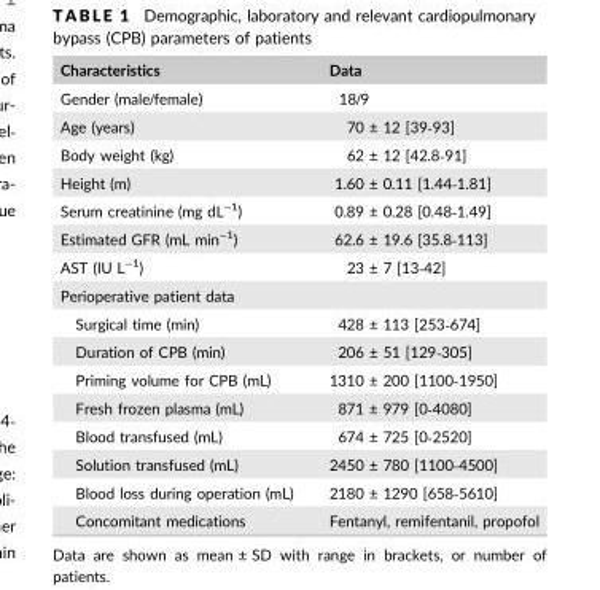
<table><thead><tr><td>Characteristics</td><td>Data</td></tr></thead><tbody><tr><td>Gender (male/female)</td><td>18/9</td></tr><tr><td>Age (years)</td><td>70 ± 12 [39‐93]</td></tr><tr><td>Body weight (kg)</td><td>62 ± 12 [42.8‐91]</td></tr><tr><td>Height (m)</td><td>1.60 ± 0.11 [1.44‐1.81]</td></tr><tr><td>Serum creatinine (mg dL<sup>−1</sup>)</td><td>0.89 ± 0.28 [0.48‐1.49]</td></tr><tr><td>Estimated GFR (mL min<sup>−1</sup>)</td><td>62.6 ± 19.6 [35.8‐113]</td></tr><tr><td>AST (IU L<sup>−1</sup>)</td><td>23 ± 7 [13‐42]</td></tr><tr><td colspan="2">Perioperative patient data</td></tr><tr><td>Surgical time (min)</td><td>428 ± 113 [253‐674]</td></tr><tr><td>Duration of CPB (min)</td><td>206 ± 51 [129‐305]</td></tr><tr><td>Priming volume for CPB (mL)</td><td>1310 ± 200 [1100‐1950]</td></tr><tr><td>Fresh frozen plasma (mL)</td><td>871 ± 979 [0‐4080]</td></tr><tr><td>Blood transfused (mL)</td><td>674 ± 725 [0‐2520]</td></tr><tr><td>Solution transfused (mL)</td><td>2450 ± 780 [1100‐4500]</td></tr><tr><td>Blood loss during operation (mL)</td><td>2180 ± 1290 [658‐5610]</td></tr><tr><td>Concomitant medications</td><td>Fentanyl, remifentanil, propofol</td></tr></tbody></table>